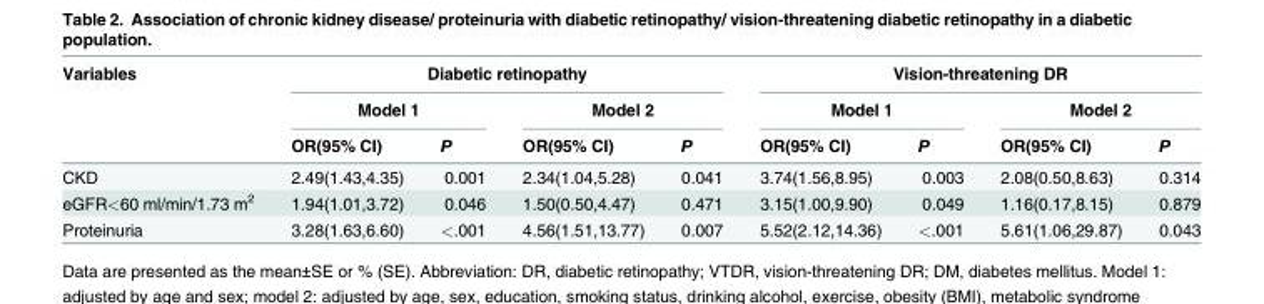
<table><thead><tr><td rowspan="3">Variables</td><td colspan="4">Diabetic retinopathy</td><td colspan="4">Vision-threatening DR</td></tr><tr><td colspan="2">Model 1</td><td colspan="2">Model 2</td><td colspan="2">Model 1</td><td colspan="2">Model 2</td></tr><tr><td>OR(95% CI)</td><td>P</td><td>OR(95% CI)</td><td>P</td><td>OR(95% CI)</td><td>P</td><td>OR(95% CI)</td><td>P</td></tr></thead><tbody><tr><td>CKD</td><td>2.49(1.43,4.35)</td><td>0.001</td><td>2.34(1.04,5.28)</td><td>0.041</td><td>3.74(1.56,8.95)</td><td>0.003</td><td>2.08(0.50,8.63)</td><td>0.314</td></tr><tr><td>eGFR&lt;60 ml/min/1.73 m<sup>2</sup></td><td>1.94(1.01,3.72)</td><td>0.046</td><td>1.50(0.50,4.47)</td><td>0.471</td><td>3.15(1.00,9.90)</td><td>0.049</td><td>1.16(0.17,8.15)</td><td>0.879</td></tr><tr><td>Proteinuria</td><td>3.28(1.63,6.60)</td><td>&lt;.001</td><td>4.56(1.51,13.77)</td><td>0.007</td><td>5.52(2.12,14.36)</td><td>&lt;.001</td><td>5.61(1.06,29.87)</td><td>0.043</td></tr></tbody></table>